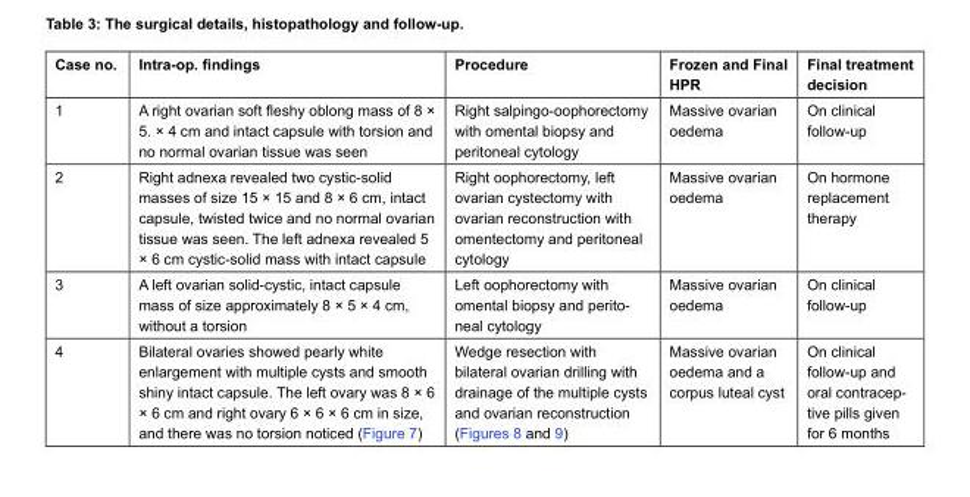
<table><thead><tr><td>Case no.</td><td>Intra-op. findings</td><td>Procedure</td><td>Frozen and Final HPR</td><td>Final treatment decision</td></tr></thead><tbody><tr><td>1</td><td>A right ovarian soft fleshy oblong mass of 8 × 5. × 4 cm and intact capsule with torsion and no normal ovarian tissue was seen</td><td>Right salpingo-oophorectomy with omental biopsy and peritoneal cytology</td><td>Massive ovarian oedema</td><td>On clinical follow-up</td></tr><tr><td>2</td><td>Right adnexa revealed two cystic-solid masses of size 15 × 15 and 8 × 6 cm, intact capsule, twisted twice and no normal ovarian tissue was seen. The left adnexa revealed 5 × 6 cm cystic-solid mass with intact capsule</td><td>Right oophorectomy, left ovarian cystectomy with ovarian reconstruction with omentectomy and peritoneal cytology</td><td>Massive ovarian oedema</td><td>On hormone replacement therapy</td></tr><tr><td>3</td><td>A left ovarian solid-cystic, intact capsule mass of size approximately 8 × 5 × 4 cm, without a torsion</td><td>Left oophorectomy with omental biopsy and perito- neal cytology</td><td>Massive ovarian oedema</td><td>On clinical follow-up</td></tr><tr><td>4</td><td>Bilateral ovaries showed pearly white enlargement with multiple cysts and smooth shiny intact capsule. The left ovary was 8 × 6 × 6 cm and right ovary 6 × 6 × 6 cm in size, and there was no torsion noticed (Figure 7)</td><td>Wedge resection with bilateral ovarian drilling with drainage of the multiple cysts and ovarian reconstruction (Figures 8 and 9)</td><td>Massive ovarian oedema and a corpus luteal cyst</td><td>On clinical follow-up and oral contracep- tive pills given for 6 months</td></tr></tbody></table>